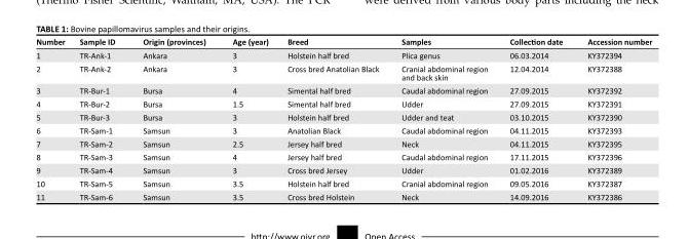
<table><thead><tr><td>Number</td><td>Sample ID</td><td>Origin (provinces)</td><td>Age (year)</td><td>Breed</td><td>Samples</td><td>Collection date</td><td>Accession number</td></tr></thead><tbody><tr><td>1</td><td>TR-Ank-1</td><td>Ankara</td><td>3</td><td>Holstein half bred</td><td>Plica genus</td><td>06.03.2014</td><td>KY372394</td></tr><tr><td>2</td><td>TR-Ank-2</td><td>Ankara</td><td>3</td><td>Cross bred Anatolian Black</td><td>Cranial abdominal region and back skin</td><td>12.04.2014</td><td>KY372388</td></tr><tr><td>3</td><td>TR-Bur-1</td><td>Bursa</td><td>4</td><td>Simental half bred</td><td>Caudal abdominal region</td><td>27.09.2015</td><td>KY372392</td></tr><tr><td>4</td><td>TR-Bur-2</td><td>Bursa</td><td>1.5</td><td>Simental half bred</td><td>Udder</td><td>27.09.2015</td><td>KY372391</td></tr><tr><td>5</td><td>TR-Bur-3</td><td>Bursa</td><td>3</td><td>Holstein half bred</td><td>Udder and teat</td><td>03.10.2015</td><td>KY372390</td></tr><tr><td>6</td><td>TR-Sam-1</td><td>Samsun</td><td>3</td><td>Anatolian Black</td><td>Caudal abdominal region</td><td>04.11.2015</td><td>KY372393</td></tr><tr><td>7</td><td>TR-Sam-2</td><td>Samsun</td><td>2.5</td><td>Jersey half bred</td><td>Neck</td><td>04.11.2015</td><td>KY372395</td></tr><tr><td>8</td><td>TR-Sam-3</td><td>Samsun</td><td>4</td><td>Jersey half bred</td><td>Caudal abdominal region</td><td>17.11.2015</td><td>KY372396</td></tr><tr><td>9</td><td>TR-Sam-4</td><td>Samsun</td><td>3</td><td>Cross bred Jersey</td><td>Udder</td><td>01.02.2016</td><td>KY372389</td></tr><tr><td>10</td><td>TR-Sam-5</td><td>Samsun</td><td>3.5</td><td>Holstein half bred</td><td>Cranial abdominal region</td><td>09.05.2016</td><td>KY372387</td></tr><tr><td>11</td><td>TR-Sam-6</td><td>Samsun</td><td>3.5</td><td>Cross bred Holstein</td><td>Neck</td><td>14.09.2016</td><td>KY372386</td></tr></tbody></table>